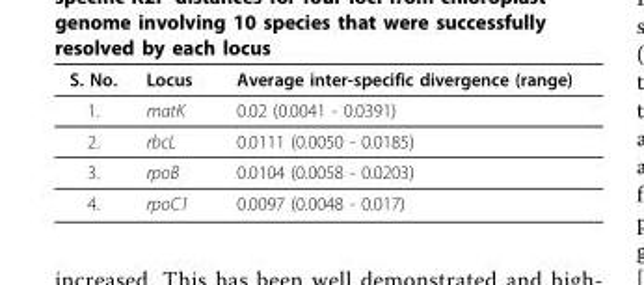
<table><thead><tr><td>S. No.</td><td>Locus</td><td>Average inter-specific divergence (range)</td></tr></thead><tbody><tr><td>1.</td><td>matK</td><td>0.02 (0.0041 - 0.0391)</td></tr><tr><td>2.</td><td>rbcL</td><td>0.0111 (0.0050 - 0.0185)</td></tr><tr><td>3.</td><td>rpoB</td><td>0.0104 (0.0058 - 0.0203)</td></tr><tr><td>4.</td><td>rpoC1</td><td>0.0097 (0.0048 - 0.017)</td></tr></tbody></table>